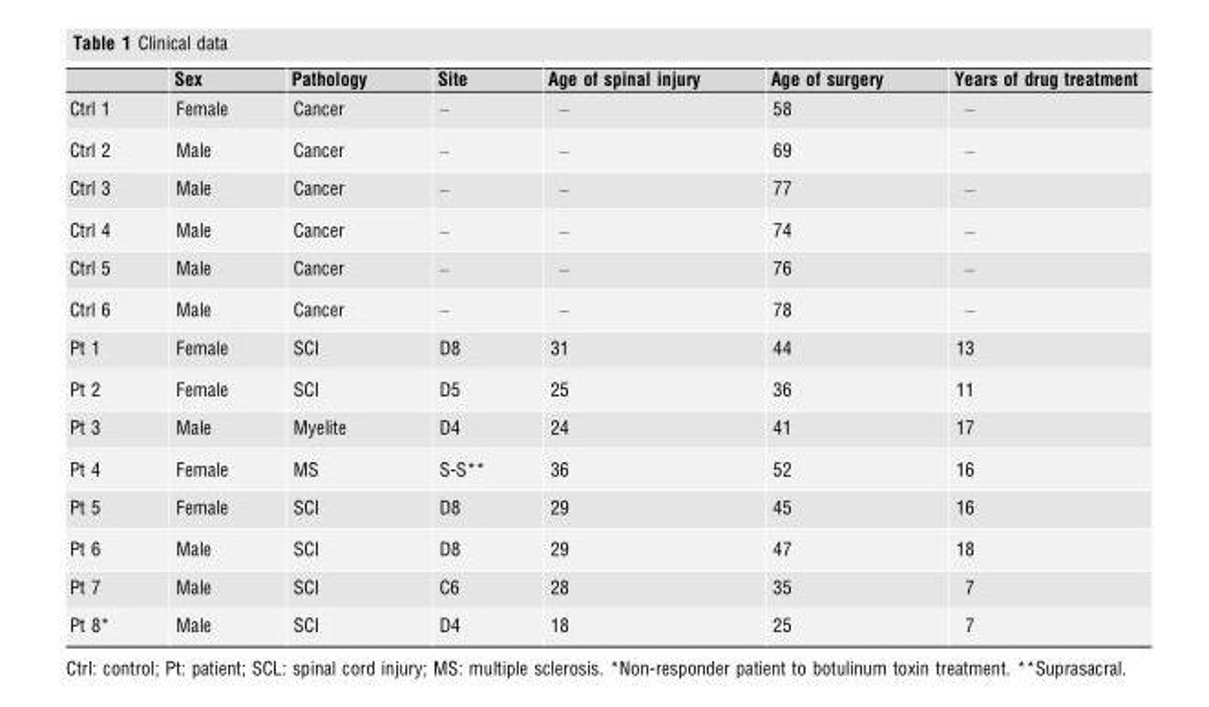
<table><thead><tr><td></td><td>Sex</td><td>Pathology</td><td>Site</td><td>Age of spinal injury</td><td>Age of surgery</td><td>Years of drug treatment</td></tr></thead><tbody><tr><td>Ctrl 1</td><td>Female</td><td>Cancer</td><td>–</td><td>–</td><td>58</td><td>–</td></tr><tr><td>Ctrl 2</td><td>Male</td><td>Cancer</td><td>–</td><td>–</td><td>69</td><td>–</td></tr><tr><td>Ctrl 3</td><td>Male</td><td>Cancer</td><td>–</td><td>–</td><td>77</td><td>–</td></tr><tr><td>Ctrl 4</td><td>Male</td><td>Cancer</td><td>–</td><td>–</td><td>74</td><td>–</td></tr><tr><td>Ctrl 5</td><td>Male</td><td>Cancer</td><td>–</td><td>–</td><td>76</td><td>–</td></tr><tr><td>Ctrl 6</td><td>Male</td><td>Cancer</td><td>–</td><td>–</td><td>78</td><td>–</td></tr><tr><td>Pt 1</td><td>Female</td><td>SCI</td><td>D8</td><td>31</td><td>44</td><td>13</td></tr><tr><td>Pt 2</td><td>Female</td><td>SCI</td><td>D5</td><td>25</td><td>36</td><td>11</td></tr><tr><td>Pt 3</td><td>Male</td><td>Myelite</td><td>D4</td><td>24</td><td>41</td><td>17</td></tr><tr><td>Pt 4</td><td>Female</td><td>MS</td><td>S-S**</td><td>36</td><td>52</td><td>16</td></tr><tr><td>Pt 5</td><td>Female</td><td>SCI</td><td>D8</td><td>29</td><td>45</td><td>16</td></tr><tr><td>Pt 6</td><td>Male</td><td>SCI</td><td>D8</td><td>29</td><td>47</td><td>18</td></tr><tr><td>Pt 7</td><td>Male</td><td>SCI</td><td>C6</td><td>28</td><td>35</td><td>7</td></tr><tr><td>Pt 8*</td><td>Male</td><td>SCI</td><td>D4</td><td>18</td><td>25</td><td>7</td></tr></tbody></table>